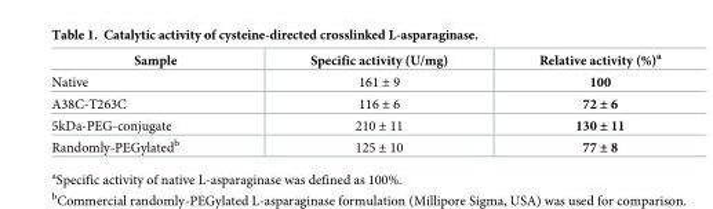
<table><thead><tr><td>Sample</td><td>Specific activity (U/mg)</td><td>Relative activity (%)<sup>a</sup></td></tr></thead><tbody><tr><td>Native</td><td>161 ± 9</td><td>100</td></tr><tr><td>A38C-T263C</td><td>116 ± 6</td><td>72 ± 6</td></tr><tr><td>5kDa-PEG-conjugate</td><td>210 ± 11</td><td>130 ± 11</td></tr><tr><td>Randomly-PEGylated<sup>b</sup></td><td>125 ± 10</td><td>77 ± 8</td></tr></tbody></table>